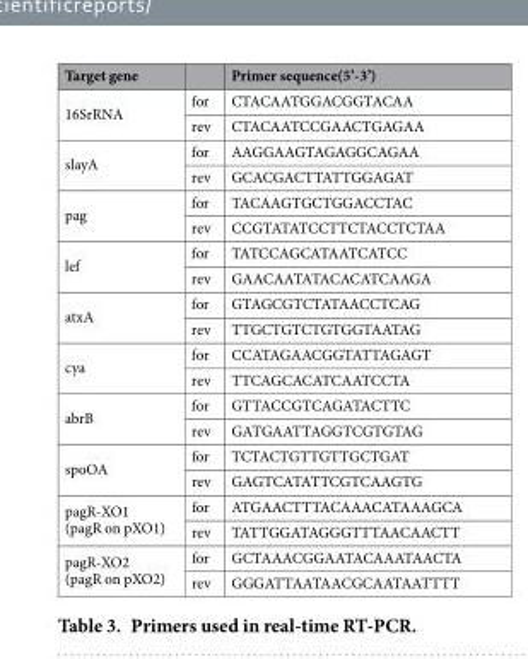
<table><thead><tr><td>Target gene</td><td></td><td>Primer sequence(5’-3’)</td></tr></thead><tbody><tr><td rowspan="2">16SrRNA</td><td>for</td><td>CTACAATGGACGGTACAA</td></tr><tr><td>rev</td><td>CTACAATCCGAACTGAGAA</td></tr><tr><td rowspan="2">slayA</td><td>for</td><td>AAGGAAGTAGAGGCAGAA</td></tr><tr><td>rev</td><td>GCACGACTTATTGGAGAT</td></tr><tr><td rowspan="2">pag</td><td>for</td><td>TACAAGTGCTGGACCTAC</td></tr><tr><td>rev</td><td>CCGTATATCCTTCTACCTCTAA</td></tr><tr><td rowspan="2">lef</td><td>for</td><td>TATCCAGCATAATCATCC</td></tr><tr><td>rev</td><td>GAACAATATACACATCAAGA</td></tr><tr><td rowspan="2">atxA</td><td>for</td><td>GTAGCGTCTATAACCTCAG</td></tr><tr><td>rev</td><td>TTGCTGTCTGTGGTAATAG</td></tr><tr><td rowspan="2">cya</td><td>for</td><td>CCATAGAACGGTATTAGAGT</td></tr><tr><td>rev</td><td>TTCAGCACATCAATCCTA</td></tr><tr><td rowspan="2">abrB</td><td>for</td><td>GTTACCGTCAGATACTTC</td></tr><tr><td>rev</td><td>GATGAATTAGGTCGTGTAG</td></tr><tr><td rowspan="2">spoOA</td><td>for</td><td>TCTACTGTTGTTGCTGAT</td></tr><tr><td>rev</td><td>GAGTCATATTCGTCAAGTG</td></tr><tr><td rowspan="2">pagR-XO1 (pagR on pXO1)</td><td>for</td><td>ATGAACTTTACAAACATAAAGCA</td></tr><tr><td>rev</td><td>TATTGGATAGGGTTTAACAACTT</td></tr><tr><td rowspan="2">pagR-XO2 (pagR on pXO2)</td><td>for</td><td>GCTAAACGGAATACAAATAACTA</td></tr><tr><td>rev</td><td>GGGATTAATAACGCAATAATTTT</td></tr></tbody></table>